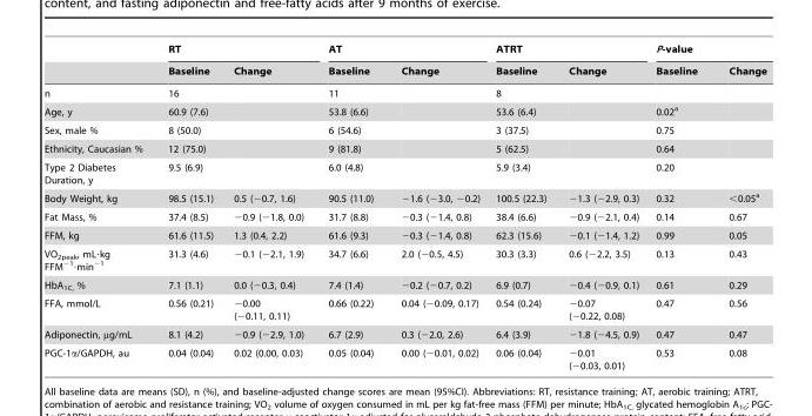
<table><thead><tr><td rowspan="2"></td><td colspan="2">RT</td><td colspan="2">AT</td><td colspan="2">ATRT</td><td colspan="2">P-value</td></tr><tr><td>Baseline</td><td>Change</td><td>Baseline</td><td>Change</td><td>Baseline</td><td>Change</td><td>Baseline</td><td>Change</td></tr></thead><tbody><tr><td>n</td><td>16</td><td></td><td>11</td><td></td><td>8</td><td></td><td></td><td></td></tr><tr><td>Age, y</td><td>60.9 (7.6)</td><td></td><td>53.8 (6.6)</td><td></td><td>53.6 (6.4)</td><td></td><td>0.02<sup>a</sup></td><td></td></tr><tr><td>Sex, male %</td><td>8 (50.0)</td><td></td><td>6 (54.6)</td><td></td><td>3 (37.5)</td><td></td><td>0.75</td><td></td></tr><tr><td>Ethnicity, Caucasian %</td><td>12 (75.0)</td><td></td><td>9 (81.8)</td><td></td><td>5 (62.5)</td><td></td><td>0.64</td><td></td></tr><tr><td>Type 2 Diabetes Duration, y</td><td>9.5 (6.9)</td><td></td><td>6.0 (4.8)</td><td></td><td>5.9 (3.4)</td><td></td><td>0.20</td><td></td></tr><tr><td>Body Weight, kg</td><td>98.5 (15.1)</td><td>0.5 (−0.7, 1.6)</td><td>90.5 (11.0)</td><td>−1.6 (−3.0, −0.2)</td><td>100.5 (22.3)</td><td>−1.3 (−2.9, 0.3)</td><td>0.32</td><td>&lt;0.05<sup>a</sup></td></tr><tr><td>Fat Mass, %</td><td>37.4 (8.5)</td><td>−0.9 (−1.8, 0.0)</td><td>31.7 (8.8)</td><td>−0.3 (−1.4, 0.8)</td><td>38.4 (6.6)</td><td>−0.9 (−2.1, 0.4)</td><td>0.14</td><td>0.67</td></tr><tr><td>FFM, kg</td><td>61.6 (11.5)</td><td>1.3 (0.4, 2.2)</td><td>61.6 (9.3)</td><td>−0.3 (−1.4, 0.8)</td><td>62.3 (15.6)</td><td>−0.1 (−1.4, 1.2)</td><td>0.99</td><td>0.05</td></tr><tr><td>VO<sub>2peak</sub>, mL⋅kg FFM<sup>−1</sup>⋅min<sup>−1</sup></td><td>31.3 (4.6)</td><td>−0.1 (−2.1, 1.9)</td><td>34.7 (6.6)</td><td>2.0 (−0.5, 4.5)</td><td>30.3 (3.3)</td><td>0.6 (−2.2, 3.5)</td><td>0.13</td><td>0.43</td></tr><tr><td>HbA<sub>1C,</sub> %</td><td>7.1 (1.1)</td><td>0.0 (−0.3, 0.4)</td><td>7.4 (1.4)</td><td>−0.2 (−0.7, 0.2)</td><td>6.9 (0.7)</td><td>−0.4 (−0.9, 0.1)</td><td>0.61</td><td>0.29</td></tr><tr><td>FFA, mmol/L</td><td>0.56 (0.21)</td><td>−0.00 (−0.11, 0.11)</td><td>0.66 (0.22)</td><td>0.04 (−0.09, 0.17)</td><td>0.54 (0.24)</td><td>−0.07 (−0.22, 0.08)</td><td>0.47</td><td>0.56</td></tr><tr><td>Adiponectin, µg/mL</td><td>8.1 (4.2)</td><td>−0.9 (−2.9, 1.0)</td><td>6.7 (2.9)</td><td>0.3 (−2.0, 2.6)</td><td>6.4 (3.9)</td><td>−1.8 (−4.5, 0.9)</td><td>0.47</td><td>0.47</td></tr><tr><td>PGC-1α/GAPDH, au</td><td>0.04 (0.04)</td><td>0.02 (0.00, 0.03)</td><td>0.05 (0.04)</td><td>0.00 (−0.01, 0.02)</td><td>0.06 (0.04)</td><td>−0.01 (−0.03, 0.01)</td><td>0.53</td><td>0.08</td></tr></tbody></table>